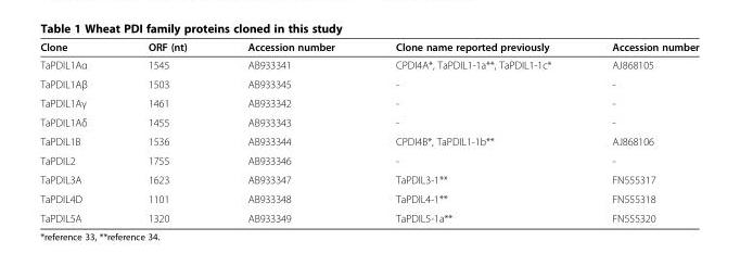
<table><thead><tr><td>Clone</td><td>ORF (nt)</td><td>Accession number</td><td>Clone name reported previously</td><td>Accession number</td></tr></thead><tbody><tr><td>TaPDIL1Aα</td><td>1545</td><td>AB933341</td><td>CPDI4A*, TaPDIL1-1a**, TaPDIL1-1c*</td><td>AJ868105</td></tr><tr><td>TaPDIL1Aβ</td><td>1503</td><td>AB933345</td><td>-</td><td>-</td></tr><tr><td>TaPDIL1Aγ</td><td>1461</td><td>AB933342</td><td>-</td><td>-</td></tr><tr><td>TaPDIL1Aδ</td><td>1455</td><td>AB933343</td><td>-</td><td>-</td></tr><tr><td>TaPDIL1B</td><td>1536</td><td>AB933344</td><td>CPDI4B*, TaPDIL1-1b**</td><td>AJ868106</td></tr><tr><td>TaPDIL2</td><td>1755</td><td>AB933346</td><td>-</td><td>-</td></tr><tr><td>TaPDIL3A</td><td>1623</td><td>AB933347</td><td>TaPDIL3-1**</td><td>FN555317</td></tr><tr><td>TaPDIL4D</td><td>1101</td><td>AB933348</td><td>TaPDIL4-1**</td><td>FN555318</td></tr><tr><td>TaPDIL5A</td><td>1320</td><td>AB933349</td><td>TaPDIL5-1a**</td><td>FN555320</td></tr></tbody></table>